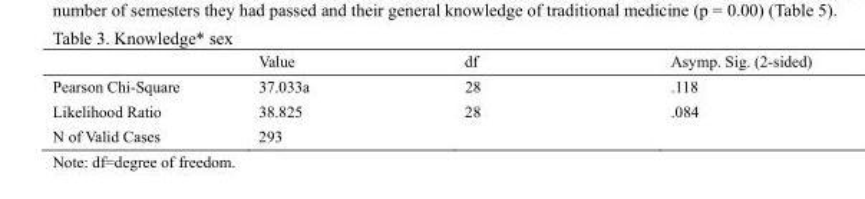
<table><thead><tr><td></td><td>Value</td><td>df</td><td>Asymp. Sig. (2-sided)</td></tr></thead><tbody><tr><td>Pearson Chi-Square</td><td>37.033a</td><td>28</td><td>.118</td></tr><tr><td>Likelihood Ratio</td><td>38.825</td><td>28</td><td>.084</td></tr><tr><td>N of Valid Cases</td><td>293</td><td></td><td></td></tr></tbody></table>